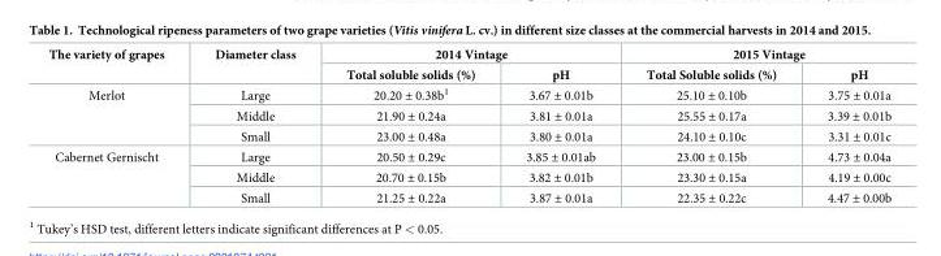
<table><thead><tr><td rowspan="2">The variety of grapes</td><td rowspan="2">Diameter class</td><td colspan="2">2014 Vintage</td><td colspan="2">2015 Vintage</td></tr><tr><td>Total soluble solids (%)</td><td>pH</td><td>Total Soluble solids (%)</td><td>pH</td></tr></thead><tbody><tr><td rowspan="3">Merlot</td><td>Large</td><td>20.20 ± 0.38b<sup>1</sup></td><td>3.67 ± 0.01b</td><td>25.10 ± 0.10b</td><td>3.75 ± 0.01a</td></tr><tr><td>Middle</td><td>21.90 ± 0.24a</td><td>3.81 ± 0.01a</td><td>25.55 ± 0.17a</td><td>3.39 ± 0.01b</td></tr><tr><td>Small</td><td>23.00 ± 0.48a</td><td>3.80 ± 0.01a</td><td>24.10 ± 0.10c</td><td>3.31 ± 0.01c</td></tr><tr><td rowspan="3">Cabernet Gernischt</td><td>Large</td><td>20.50 ± 0.29c</td><td>3.85 ± 0.01ab</td><td>23.00 ± 0.15b</td><td>4.73 ± 0.04a</td></tr><tr><td>Middle</td><td>20.70 ± 0.15b</td><td>3.82 ± 0.01b</td><td>23.30 ± 0.15a</td><td>4.19 ± 0.00c</td></tr><tr><td>Small</td><td>21.25 ± 0.22a</td><td>3.87 ± 0.01a</td><td>22.35 ± 0.22c</td><td>4.47 ± 0.00b</td></tr></tbody></table>